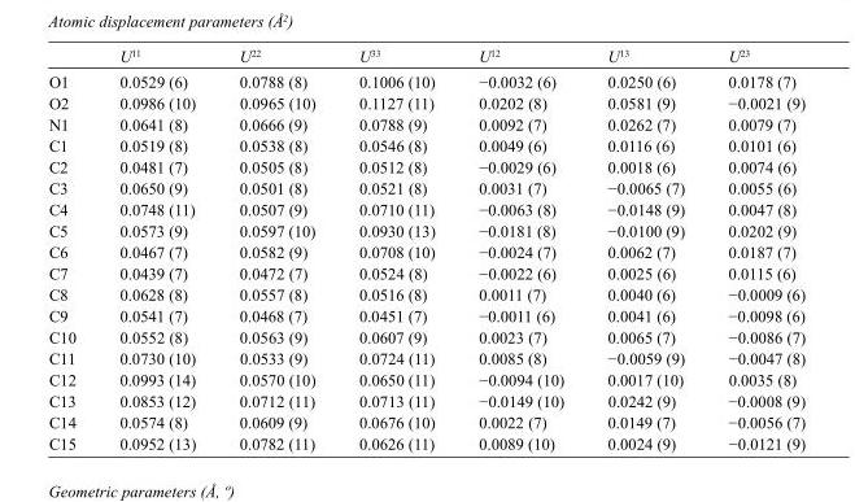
<table><thead><tr><td></td><td>U<sup>11</sup></td><td>U<sup>22</sup></td><td>U<sup>33</sup></td><td>U<sup>12</sup></td><td>U<sup>13</sup></td><td>U<sup>23</sup></td></tr></thead><tbody><tr><td>O1</td><td>0.0529 (6)</td><td>0.0788 (8)</td><td>0.1006 (10)</td><td>−0.0032 (6)</td><td>0.0250 (6)</td><td>0.0178 (7)</td></tr><tr><td>O2</td><td>0.0986 (10)</td><td>0.0965 (10)</td><td>0.1127 (11)</td><td>0.0202 (8)</td><td>0.0581 (9)</td><td>−0.0021 (9)</td></tr><tr><td>N1</td><td>0.0641 (8)</td><td>0.0666 (9)</td><td>0.0788 (9)</td><td>0.0092 (7)</td><td>0.0262 (7)</td><td>0.0079 (7)</td></tr><tr><td>C1</td><td>0.0519 (8)</td><td>0.0538 (8)</td><td>0.0546 (8)</td><td>0.0049 (6)</td><td>0.0116 (6)</td><td>0.0101 (6)</td></tr><tr><td>C2</td><td>0.0481 (7)</td><td>0.0505 (8)</td><td>0.0512 (8)</td><td>−0.0029 (6)</td><td>0.0018 (6)</td><td>0.0074 (6)</td></tr><tr><td>C3</td><td>0.0650 (9)</td><td>0.0501 (8)</td><td>0.0521 (8)</td><td>0.0031 (7)</td><td>−0.0065 (7)</td><td>0.0055 (6)</td></tr><tr><td>C4</td><td>0.0748 (11)</td><td>0.0507 (9)</td><td>0.0710 (11)</td><td>−0.0063 (8)</td><td>−0.0148 (9)</td><td>0.0047 (8)</td></tr><tr><td>C5</td><td>0.0573 (9)</td><td>0.0597 (10)</td><td>0.0930 (13)</td><td>−0.0181 (8)</td><td>−0.0100 (9)</td><td>0.0202 (9)</td></tr><tr><td>C6</td><td>0.0467 (7)</td><td>0.0582 (9)</td><td>0.0708 (10)</td><td>−0.0024 (7)</td><td>0.0062 (7)</td><td>0.0187 (7)</td></tr><tr><td>C7</td><td>0.0439 (7)</td><td>0.0472 (7)</td><td>0.0524 (8)</td><td>−0.0022 (6)</td><td>0.0025 (6)</td><td>0.0115 (6)</td></tr><tr><td>C8</td><td>0.0628 (8)</td><td>0.0557 (8)</td><td>0.0516 (8)</td><td>0.0011 (7)</td><td>0.0040 (6)</td><td>−0.0009 (6)</td></tr><tr><td>C9</td><td>0.0541 (7)</td><td>0.0468 (7)</td><td>0.0451 (7)</td><td>−0.0011 (6)</td><td>0.0041 (6)</td><td>−0.0098 (6)</td></tr><tr><td>C10</td><td>0.0552 (8)</td><td>0.0563 (9)</td><td>0.0607 (9)</td><td>0.0023 (7)</td><td>0.0065 (7)</td><td>−0.0086 (7)</td></tr><tr><td>C11</td><td>0.0730 (10)</td><td>0.0533 (9)</td><td>0.0724 (11)</td><td>0.0085 (8)</td><td>−0.0059 (9)</td><td>−0.0047 (8)</td></tr><tr><td>C12</td><td>0.0993 (14)</td><td>0.0570 (10)</td><td>0.0650 (11)</td><td>−0.0094 (10)</td><td>0.0017 (10)</td><td>0.0035 (8)</td></tr><tr><td>C13</td><td>0.0853 (12)</td><td>0.0712 (11)</td><td>0.0713 (11)</td><td>−0.0149 (10)</td><td>0.0242 (9)</td><td>−0.0008 (9)</td></tr><tr><td>C14</td><td>0.0574 (8)</td><td>0.0609 (9)</td><td>0.0676 (10)</td><td>0.0022 (7)</td><td>0.0149 (7)</td><td>−0.0056 (7)</td></tr><tr><td>C15</td><td>0.0952 (13)</td><td>0.0782 (11)</td><td>0.0626 (11)</td><td>0.0089 (10)</td><td>0.0024 (9)</td><td>−0.0121 (9)</td></tr></tbody></table>